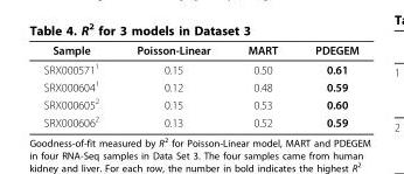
<table><thead><tr><td>Sample</td><td>Poisson-Linear</td><td>MART</td><td>PDEGEM</td></tr></thead><tbody><tr><td>SRX000571<sup>1</sup></td><td>0.15</td><td>0.50</td><td>0.61</td></tr><tr><td>SRX000604<sup>1</sup></td><td>0.12</td><td>0.48</td><td>0.59</td></tr><tr><td>SRX000605<sup>2</sup></td><td>0.15</td><td>0.53</td><td>0.60</td></tr><tr><td>SRX000606<sup>2</sup></td><td>0.13</td><td>0.52</td><td>0.59</td></tr></tbody></table>